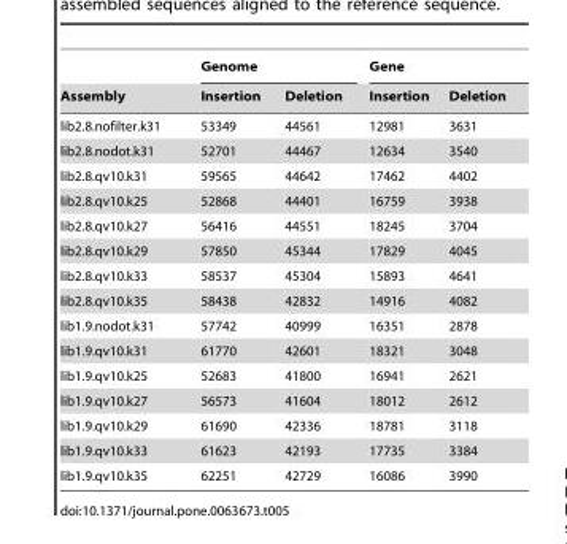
<table><thead><tr><td rowspan="2">Assembly</td><td colspan="2">Genome</td><td colspan="2">Gene</td></tr><tr><td>Insertion</td><td>Deletion</td><td>Insertion</td><td>Deletion</td></tr></thead><tbody><tr><td>lib2.8.nofilter.k31</td><td>53349</td><td>44561</td><td>12981</td><td>3631</td></tr><tr><td>lib2.8.nodot.k31</td><td>52701</td><td>44467</td><td>12634</td><td>3540</td></tr><tr><td>lib2.8.qv10.k31</td><td>59565</td><td>44642</td><td>17462</td><td>4402</td></tr><tr><td>lib2.8.qv10.k25</td><td>52868</td><td>44401</td><td>16759</td><td>3938</td></tr><tr><td>lib2.8.qv10.k27</td><td>56416</td><td>44551</td><td>18245</td><td>3704</td></tr><tr><td>lib2.8.qv10.k29</td><td>57850</td><td>45344</td><td>17829</td><td>4045</td></tr><tr><td>lib2.8.qv10.k33</td><td>58537</td><td>45304</td><td>15893</td><td>4641</td></tr><tr><td>lib2.8.qv10.k35</td><td>58438</td><td>42832</td><td>14916</td><td>4082</td></tr><tr><td>lib1.9.nodot.k31</td><td>57742</td><td>40999</td><td>16351</td><td>2878</td></tr><tr><td>lib1.9.qv10.k31</td><td>61770</td><td>42601</td><td>18321</td><td>3048</td></tr><tr><td>lib1.9.qv10.k25</td><td>52683</td><td>41800</td><td>16941</td><td>2621</td></tr><tr><td>lib1.9.qv10.k27</td><td>56573</td><td>41604</td><td>18012</td><td>2612</td></tr><tr><td>lib1.9.qv10.k29</td><td>61690</td><td>42336</td><td>18781</td><td>3118</td></tr><tr><td>lib1.9.qv10.k33</td><td>61623</td><td>42193</td><td>17735</td><td>3384</td></tr><tr><td>lib1.9.qv10.k35</td><td>62251</td><td>42729</td><td>16086</td><td>3990</td></tr></tbody></table>